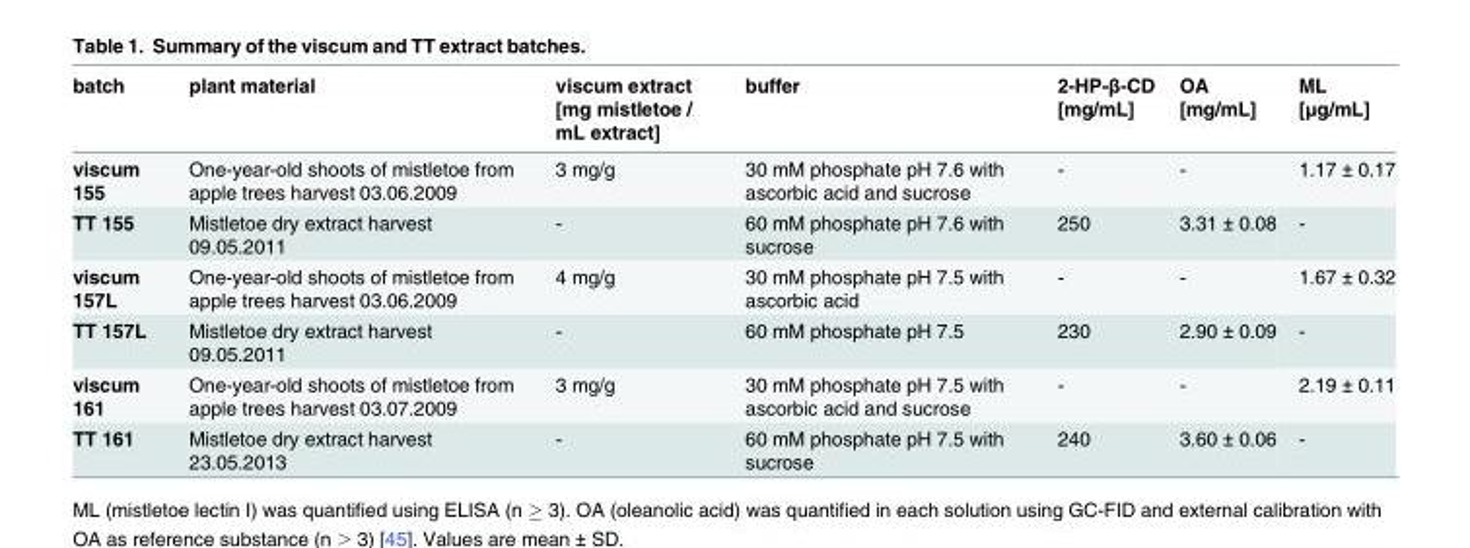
<table><thead><tr><td>batch</td><td>plant material</td><td>viscum extract [mg mistletoe / mL extract]</td><td>buffer</td><td>2-HP-β-CD [mg/mL]</td><td>OA [mg/mL]</td><td>ML [μg/mL]</td></tr></thead><tbody><tr><td>viscum 155</td><td>One-year-old shoots of mistletoe from apple trees harvest 03.06.2009</td><td>3 mg/g</td><td>30 mM phosphate pH 7.6 with ascorbic acid and sucrose</td><td>-</td><td>-</td><td>1.17 ± 0.17</td></tr><tr><td>TT 155</td><td>Mistletoe dry extract harvest 09.05.2011</td><td>-</td><td>60 mM phosphate pH 7.6 with sucrose</td><td>250</td><td>3.31 ± 0.08</td><td>-</td></tr><tr><td>viscum 157L</td><td>One-year-old shoots of mistletoe from apple trees harvest 03.06.2009</td><td>4 mg/g</td><td>30 mM phosphate pH 7.5 with ascorbic acid</td><td>-</td><td>-</td><td>1.67 ± 0.32</td></tr><tr><td>TT 157L</td><td>Mistletoe dry extract harvest 09.05.2011</td><td>-</td><td>60 mM phosphate pH 7.5</td><td>230</td><td>2.90 ± 0.09</td><td>-</td></tr><tr><td>viscum 161</td><td>One-year-old shoots of mistletoe from apple trees harvest 03.07.2009</td><td>3 mg/g</td><td>30 mM phosphate pH 7.5 with ascorbic acid and sucrose</td><td>-</td><td>-</td><td>2.19 ± 0.11</td></tr><tr><td>TT 161</td><td>Mistletoe dry extract harvest 23.05.2013</td><td>-</td><td>60 mM phosphate pH 7.5 with sucrose</td><td>240</td><td>3.60 ± 0.06</td><td>-</td></tr></tbody></table>